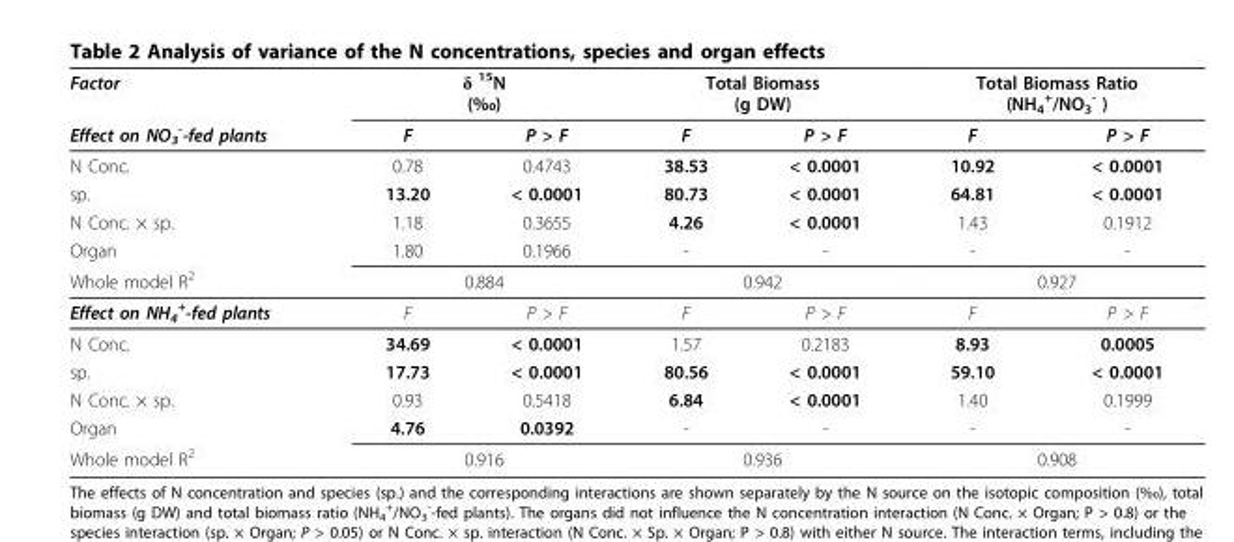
<table><thead><tr><td rowspan="2">Factor Effect on NO<sub>3</sub> <sup>-</sup>-fed plants</td><td colspan="2">δ <sup>15</sup>N (‰)</td><td colspan="2">Total Biomass (g DW)</td><td colspan="2">Total Biomass Ratio (NH<sub>4</sub> <sup>+</sup>/NO<sub>3</sub> <sup>-</sup> )</td></tr><tr><td>F</td><td>P &gt; F</td><td>F</td><td>P &gt; F</td><td>F</td><td>P &gt; F</td></tr></thead><tbody><tr><td>N Conc.</td><td>0.78</td><td>0.4743</td><td>38.53</td><td>&lt; 0.0001</td><td>10.92</td><td>&lt; 0.0001</td></tr><tr><td>sp.</td><td>13.20</td><td>&lt; 0.0001</td><td>80.73</td><td>&lt; 0.0001</td><td>64.81</td><td>&lt; 0.0001</td></tr><tr><td>N Conc. × sp.</td><td>1.18</td><td>0.3655</td><td>4.26</td><td>&lt; 0.0001</td><td>1.43</td><td>0.1912</td></tr><tr><td>Organ</td><td>1.80</td><td>0.1966</td><td>-</td><td>-</td><td>-</td><td>-</td></tr><tr><td>Whole model R<sup>2</sup></td><td colspan="2">0.884</td><td colspan="2">0.942</td><td colspan="2">0.927</td></tr><tr><td>Effect on NH<sub>4</sub> <sup>+</sup>-fed plants</td><td>F</td><td>P &gt; F</td><td>F</td><td>P &gt; F</td><td>F</td><td>P &gt; F</td></tr><tr><td>N Conc.</td><td>34.69</td><td>&lt; 0.0001</td><td>1.57</td><td>0.2183</td><td>8.93</td><td>0.0005</td></tr><tr><td>sp.</td><td>17.73</td><td>&lt; 0.0001</td><td>80.56</td><td>&lt; 0.0001</td><td>59.10</td><td>&lt; 0.0001</td></tr><tr><td>N Conc. × sp.</td><td>0.93</td><td>0.5418</td><td>6.84</td><td>&lt; 0.0001</td><td>1.40</td><td>0.1999</td></tr><tr><td>Organ</td><td>4.76</td><td>0.0392</td><td>-</td><td>-</td><td>-</td><td>-</td></tr><tr><td>Whole model R<sup>2</sup></td><td colspan="2">0.916</td><td colspan="2">0.936</td><td colspan="2">0.908</td></tr></tbody></table>